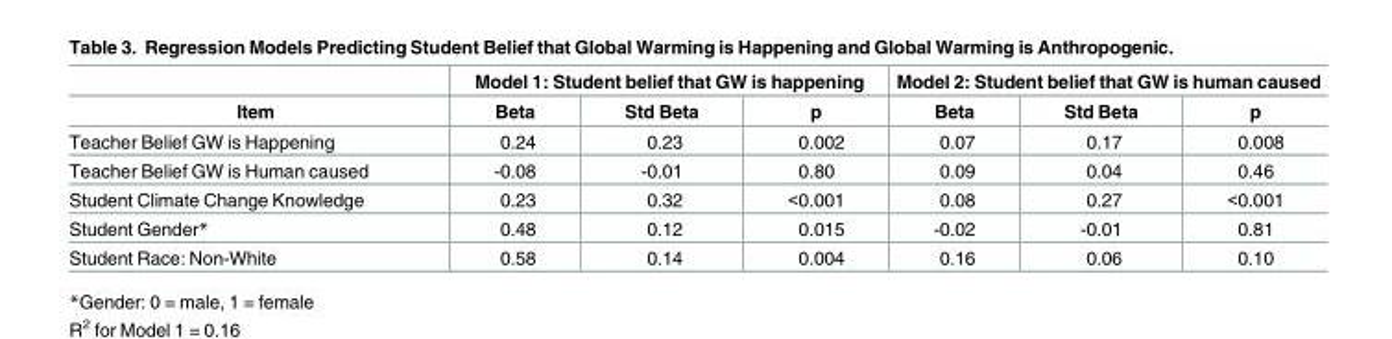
<table><thead><tr><td rowspan="2">Item</td><td colspan="3">Model 1: Student belief that GW is happening</td><td colspan="3">Model 2: Student belief that GW is human caused</td></tr><tr><td>Beta</td><td>Std Beta</td><td>p</td><td>Beta</td><td>Std Beta</td><td>p</td></tr></thead><tbody><tr><td>Teacher Belief GW is Happening</td><td>0.24</td><td>0.23</td><td>0.002</td><td>0.07</td><td>0.17</td><td>0.008</td></tr><tr><td>Teacher Belief GW is Human caused</td><td>-0.08</td><td>-0.01</td><td>0.80</td><td>0.09</td><td>0.04</td><td>0.46</td></tr><tr><td>Student Climate Change Knowledge</td><td>0.23</td><td>0.32</td><td>&lt;0.001</td><td>0.08</td><td>0.27</td><td>&lt;0.001</td></tr><tr><td>Student Gender*</td><td>0.48</td><td>0.12</td><td>0.015</td><td>-0.02</td><td>-0.01</td><td>0.81</td></tr><tr><td>Student Race: Non-White</td><td>0.58</td><td>0.14</td><td>0.004</td><td>0.16</td><td>0.06</td><td>0.10</td></tr></tbody></table>